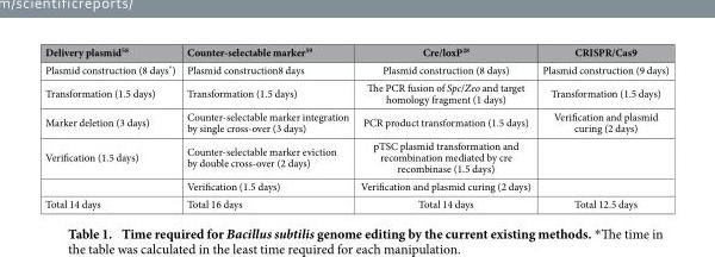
<table><thead><tr><td>Delivery plasmid<sup>58</sup></td><td>Counter-selectable marker<sup>59</sup></td><td>Cre/loxP<sup>28</sup></td><td>CRISPR/Cas9</td></tr></thead><tbody><tr><td>Plasmid construction (8 days*)</td><td>Plasmid construction8 days</td><td>Plasmid construction (8 days)</td><td>Plasmid construction (9 days)</td></tr><tr><td>Transformation (1.5 days)</td><td>Transformation (1.5 days)</td><td>The PCR fusion of Spc/Zeo and target homology fragment (1 days)</td><td>Transformation (1.5 days)</td></tr><tr><td>Marker deletion (3 days)</td><td>Counter-selectable marker integration by single cross-over (3 days)</td><td>PCR product transformation (1.5 days)</td><td>Verification and plasmid curing (2 days)</td></tr><tr><td rowspan="2">Verification (1.5 days)</td><td>Counter-selectable marker eviction by double cross-over (2 days)</td><td>pTSC plasmid transformation and recombination mediated by cre recombinase (1.5 days)</td><td></td></tr><tr><td>Verification (1.5 days)</td><td>Verification and plasmid curing (2 days)</td><td></td></tr><tr><td>Total 14 days</td><td>Total 16 days</td><td>Total 14 days</td><td>Total 12.5 days</td></tr></tbody></table>